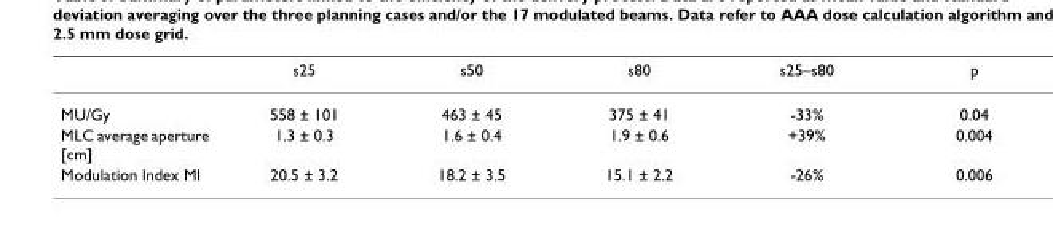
<table><thead><tr><td></td><td>s25</td><td>s50</td><td>s80</td><td>s25–s80</td><td>p</td></tr></thead><tbody><tr><td>MU/Gy</td><td>558 ± 101</td><td>463 ± 45</td><td>375 ± 41</td><td>-33%</td><td>0.04</td></tr><tr><td>MLC average aperture [cm]</td><td>1.3 ± 0.3</td><td>1.6 ± 0.4</td><td>1.9 ± 0.6</td><td>+39%</td><td>0.004</td></tr><tr><td>Modulation Index MI</td><td>20.5 ± 3.2</td><td>18.2 ± 3.5</td><td>15.1 ± 2.2</td><td>-26%</td><td>0.006</td></tr></tbody></table>